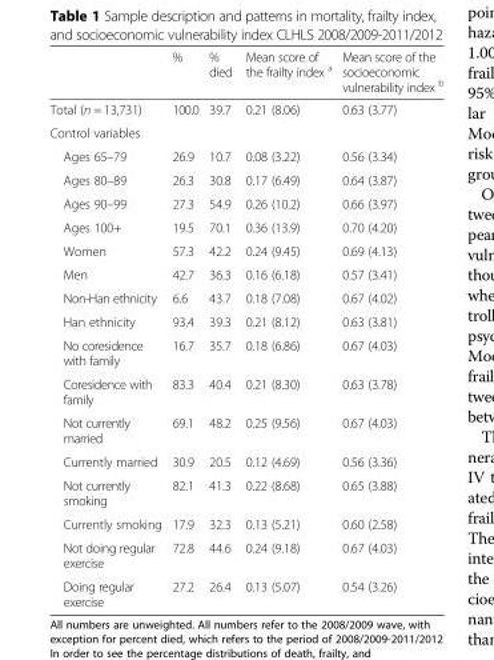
<table><thead><tr><td></td><td>%</td><td>% died</td><td>Mean score of the frailty index <sup>a</sup></td><td>Mean score of the socioeconomic vulnerability index <sup>b</sup></td></tr></thead><tbody><tr><td>Total (n = 13,731)</td><td>100.0</td><td>39.7</td><td>0.21 (8.06)</td><td>0.63 (3.77)</td></tr><tr><td colspan="5">Control variables</td></tr><tr><td>Ages 65–79</td><td>26.9</td><td>10.7</td><td>0.08 (3.22)</td><td>0.56 (3.34)</td></tr><tr><td>Ages 80–89</td><td>26.3</td><td>30.8</td><td>0.17 (6.49)</td><td>0.64 (3.87)</td></tr><tr><td>Ages 90–99</td><td>27.3</td><td>54.9</td><td>0.26 (10.2)</td><td>0.66 (3.97)</td></tr><tr><td>Ages 100+</td><td>19.5</td><td>70.1</td><td>0.36 (13.9)</td><td>0.70 (4.20)</td></tr><tr><td>Women</td><td>57.3</td><td>42.2</td><td>0.24 (9.45)</td><td>0.69 (4.13)</td></tr><tr><td>Men</td><td>42.7</td><td>36.3</td><td>0.16 (6.18)</td><td>0.57 (3.41)</td></tr><tr><td>Non-Han ethnicity</td><td>6.6</td><td>43.7</td><td>0.18 (7.08)</td><td>0.67 (4.02)</td></tr><tr><td>Han ethnicity</td><td>93.4</td><td>39.3</td><td>0.21 (8.12)</td><td>0.63 (3.81)</td></tr><tr><td>No coresidence with family</td><td>16.7</td><td>35.7</td><td>0.18 (6.86)</td><td>0.67 (4.03)</td></tr><tr><td>Coresidence with family</td><td>83.3</td><td>40.4</td><td>0.21 (8.30)</td><td>0.63 (3.78)</td></tr><tr><td>Not currently married</td><td>69.1</td><td>48.2</td><td>0.25 (9.56)</td><td>0.67 (4.03)</td></tr><tr><td>Currently married</td><td>30.9</td><td>20.5</td><td>0.12 (4.69)</td><td>0.56 (3.36)</td></tr><tr><td>Not currently smoking</td><td>82.1</td><td>41.3</td><td>0.22 (8.68)</td><td>0.65 (3.88)</td></tr><tr><td>Currently smoking</td><td>17.9</td><td>32.3</td><td>0.13 (5.21)</td><td>0.60 (2.58)</td></tr><tr><td>Not doing regular exercise</td><td>72.8</td><td>44.6</td><td>0.24 (9.18)</td><td>0.67 (4.03)</td></tr><tr><td>Doing regular exercise</td><td>27.2</td><td>26.4</td><td>0.13 (5.07)</td><td>0.54 (3.26)</td></tr></tbody></table>